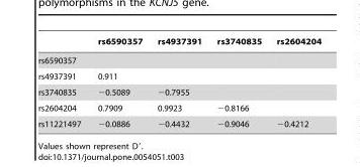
<table><thead><tr><td></td><td>rs6590357</td><td>rs4937391</td><td>rs3740835</td><td>rs2604204</td></tr></thead><tbody><tr><td colspan="5">rs6590357</td></tr><tr><td>rs4937391</td><td>0.911</td><td></td><td></td><td></td></tr><tr><td>rs3740835</td><td>−0.5089</td><td>−0.7955</td><td></td><td></td></tr><tr><td>rs2604204</td><td>0.7909</td><td>0.9923</td><td>−0.8166</td><td></td></tr><tr><td>rs11221497</td><td>−0.0886</td><td>−0.4432</td><td>−0.9046</td><td>−0.4212</td></tr></tbody></table>